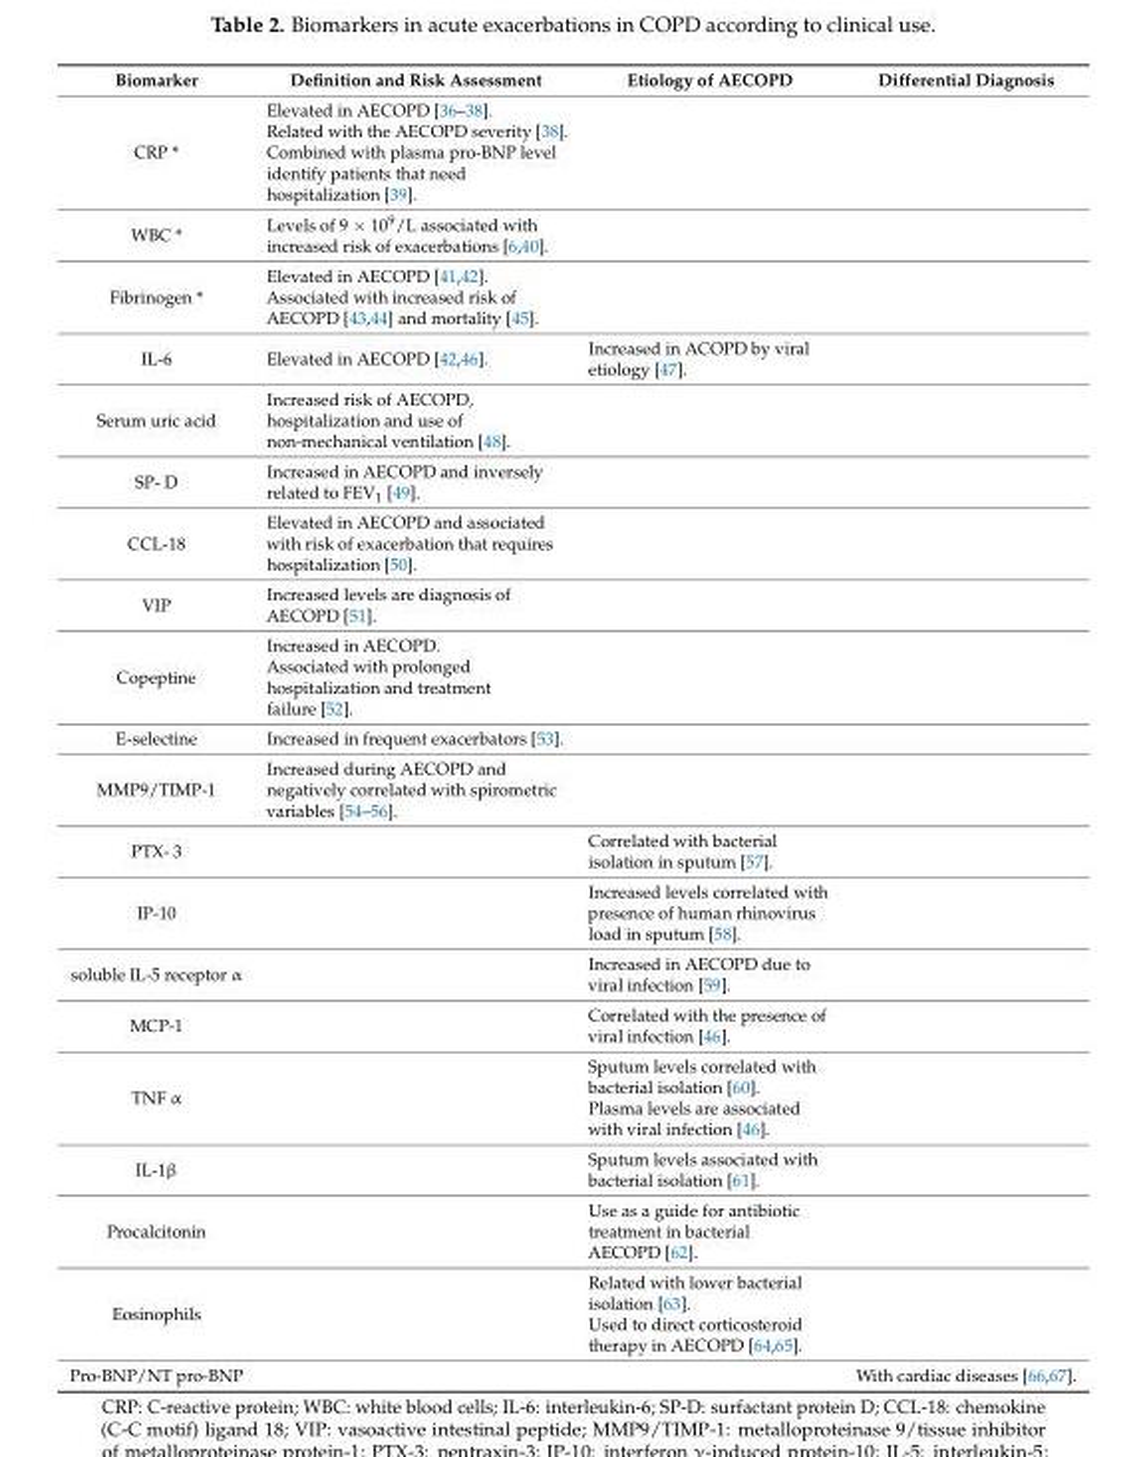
<table><thead><tr><td>Biomarker</td><td>Definition and Risk Assessment</td><td>Etiology of AECOPD</td><td>Differential Diagnosis</td></tr></thead><tbody><tr><td>CRP *</td><td>Elevated in AECOPD [36–38]. Related with the AECOPD severity [38]. Combined with plasma pro-BNP level identify patients that need hospitalization [39].</td><td></td><td></td></tr><tr><td>WBC *</td><td>Levels of 9 × 10<sup>9</sup>/L associated with increased risk of exacerbations [6,40].</td><td></td><td></td></tr><tr><td>Fibrinogen *</td><td>Elevated in AECOPD [41,42]. Associated with increased risk of AECOPD [43,44] and mortality [45].</td><td></td><td></td></tr><tr><td>IL-6</td><td>Elevated in AECOPD [42,46].</td><td>Increased in ACOPD by viral etiology [47].</td><td></td></tr><tr><td>Serum uric acid</td><td>Increased risk of AECOPD, hospitalization and use of non-mechanical ventilation [48].</td><td></td><td></td></tr><tr><td>SP- D</td><td>Increased in AECOPD and inversely related to FEV<sub>1</sub> [49].</td><td></td><td></td></tr><tr><td>CCL-18</td><td>Elevated in AECOPD and associated with risk of exacerbation that requires hospitalization [50].</td><td></td><td></td></tr><tr><td>VIP</td><td>Increased levels are diagnosis of AECOPD [51].</td><td></td><td></td></tr><tr><td>Copeptine</td><td>Increased in AECOPD. Associated with prolonged hospitalization and treatment failure [52].</td><td></td><td></td></tr><tr><td>E-selectine</td><td>Increased in frequent exacerbators [53].</td><td></td><td></td></tr><tr><td>MMP9/TIMP-1</td><td>Increased during AECOPD and negatively correlated with spirometric variables [54–56].</td><td></td><td></td></tr><tr><td>PTX- 3</td><td></td><td>Correlated with bacterial isolation in sputum [57].</td><td></td></tr><tr><td>IP-10</td><td></td><td>Increased levels correlated with presence of human rhinovirus load in sputum [58].</td><td></td></tr><tr><td>soluble IL-5 receptor α</td><td></td><td>Increased in AECOPD due to viral infection [59].</td><td></td></tr><tr><td>MCP-1</td><td></td><td>Correlated with the presence of viral infection [46].</td><td></td></tr><tr><td>TNF α</td><td></td><td>Sputum levels correlated with bacterial isolation [60]. Plasma levels are associated with viral infection [46].</td><td></td></tr><tr><td>IL-1β</td><td></td><td>Sputum levels associated with bacterial isolation [61].</td><td></td></tr><tr><td>Procalcitonin</td><td></td><td>Use as a guide for antibiotic treatment in bacterial AECOPD [62].</td><td></td></tr><tr><td>Eosinophils</td><td></td><td>Related with lower bacterial isolation [63]. Used to direct corticosteroid therapy in AECOPD [64,65].</td><td></td></tr><tr><td>Pro-BNP/NT pro-BNP</td><td></td><td></td><td>With cardiac diseases [66,67].</td></tr></tbody></table>